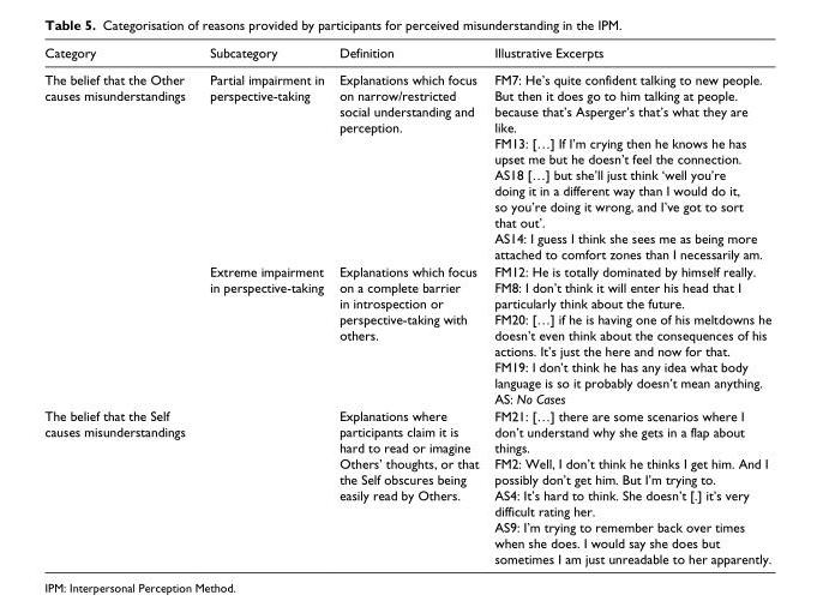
<table><thead><tr><td>Category</td><td>Subcategory</td><td>Definition</td><td>Illustrative Excerpts</td></tr></thead><tbody><tr><td rowspan="2">The belief that the Other causes misunderstandings</td><td>Partial impairment in perspective-taking</td><td>Explanations which focus on narrow/restricted social understanding and perception.</td><td>FM7: He’s quite confident talking to new people. But then it does go to him talking at people. because that’s Asperger’s that’s what they are like. FM13: […] If I’m crying then he knows he has upset me but he doesn’t feel the connection. AS18 […] but she’ll just think ‘well you’re doing it in a different way than I would do it, so you’re doing it wrong, and I’ve got to sort that out’. AS14: I guess I think she sees me as being more attached to comfort zones than I necessarily am.</td></tr><tr><td>Extreme impairment in perspective-taking</td><td>Explanations which focus on a complete barrier in introspection or perspective-taking with others.</td><td>FM12: He is totally dominated by himself really. FM8: I don’t think it will enter his head that I particularly think about the future. FM20: […] if he is having one of his meltdowns he doesn’t even think about the consequences of his actions. It’s just the here and now for that. FM19: I don’t think he has any idea what body language is so it probably doesn’t mean anything. AS: No Cases</td></tr><tr><td>The belief that the Self causes misunderstandings</td><td></td><td>Explanations where participants claim it is hard to read or imagine Others’ thoughts, or that the Self obscures being easily read by Others.</td><td>FM21: […] there are some scenarios where I don’t understand why she gets in a flap about things. FM2: Well, I don’t think he thinks I get him. And I possibly don’t get him. But I’m trying to. AS4: It’s hard to think. She doesn’t [.] it’s very difficult rating her. AS9: I’m trying to remember back over times when she does. I would say she does but sometimes I am just unreadable to her apparently.</td></tr></tbody></table>